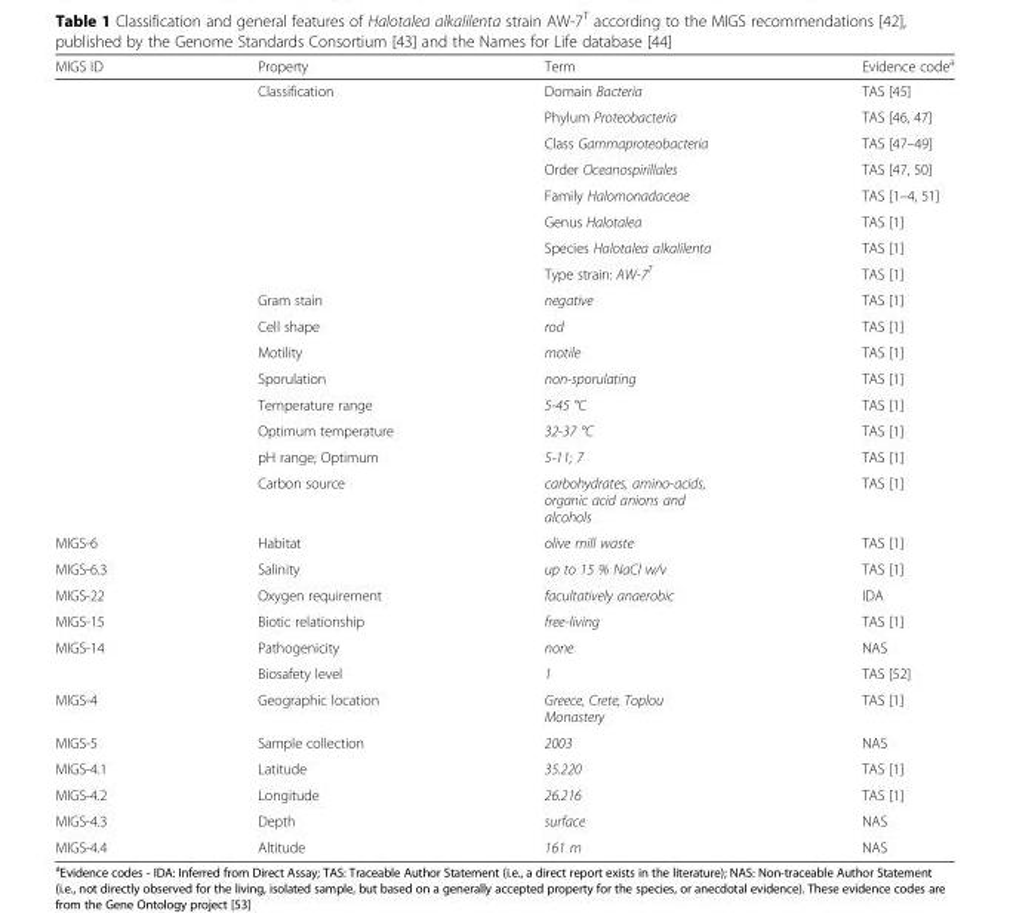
<table><thead><tr><td>MIGS ID</td><td>Property</td><td>Term</td><td>Evidence code<sup>a</sup></td></tr></thead><tbody><tr><td></td><td>Classification</td><td>Domain Bacteria</td><td>TAS [45]</td></tr><tr><td></td><td></td><td>Phylum Proteobacteria</td><td>TAS [46, 47]</td></tr><tr><td></td><td></td><td>Class Gammaproteobacteria</td><td>TAS [47–49]</td></tr><tr><td></td><td></td><td>Order Oceanospirillales</td><td>TAS [47, 50]</td></tr><tr><td></td><td></td><td>Family Halomonadaceae</td><td>TAS [1–4, 51]</td></tr><tr><td></td><td></td><td>Genus Halotalea</td><td>TAS [1]</td></tr><tr><td></td><td></td><td>Species Halotalea alkalilenta</td><td>TAS [1]</td></tr><tr><td></td><td></td><td>Type strain: AW-7<sup>T</sup></td><td>TAS [1]</td></tr><tr><td></td><td>Gram stain</td><td>negative</td><td>TAS [1]</td></tr><tr><td></td><td>Cell shape</td><td>rod</td><td>TAS [1]</td></tr><tr><td></td><td>Motility</td><td>motile</td><td>TAS [1]</td></tr><tr><td></td><td>Sporulation</td><td>non-sporulating</td><td>TAS [1]</td></tr><tr><td></td><td>Temperature range</td><td>5-45 °C</td><td>TAS [1]</td></tr><tr><td></td><td>Optimum temperature</td><td>32-37 °C</td><td>TAS [1]</td></tr><tr><td></td><td>pH range; Optimum</td><td>5-11; 7</td><td>TAS [1]</td></tr><tr><td></td><td>Carbon source</td><td>carbohydrates, amino-acids, organic acid anions and alcohols</td><td>TAS [1]</td></tr><tr><td>MIGS-6</td><td>Habitat</td><td>olive mill waste</td><td>TAS [1]</td></tr><tr><td>MIGS-6.3</td><td>Salinity</td><td>up to 15 % NaCl w/v</td><td>TAS [1]</td></tr><tr><td>MIGS-22</td><td>Oxygen requirement</td><td>facultatively anaerobic</td><td>IDA</td></tr><tr><td>MIGS-15</td><td>Biotic relationship</td><td>free-living</td><td>TAS [1]</td></tr><tr><td rowspan="2">MIGS-14</td><td>Pathogenicity</td><td>none</td><td>NAS</td></tr><tr><td>Biosafety level</td><td>1</td><td>TAS [52]</td></tr><tr><td>MIGS-4</td><td>Geographic location</td><td>Greece, Crete, Toplou Monastery</td><td>TAS [1]</td></tr><tr><td>MIGS-5</td><td>Sample collection</td><td>2003</td><td>NAS</td></tr><tr><td>MIGS-4.1</td><td>Latitude</td><td>35.220</td><td>TAS [1]</td></tr><tr><td>MIGS-4.2</td><td>Longitude</td><td>26.216</td><td>TAS [1]</td></tr><tr><td>MIGS-4.3</td><td>Depth</td><td>surface</td><td>NAS</td></tr><tr><td>MIGS-4.4</td><td>Altitude</td><td>161 m</td><td>NAS</td></tr></tbody></table>